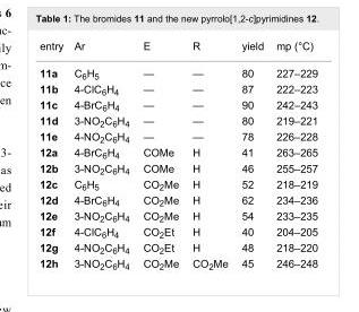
<table><tbody><tr><td>entry</td><td>Ar</td><td>E</td><td>R</td><td>yield</td><td>mp (°C)</td></tr><tr><td>11a</td><td>C<sub>6</sub>H<sub>5</sub></td><td>—</td><td>—</td><td>80</td><td>227–229</td></tr><tr><td>11b</td><td>4-ClC<sub>6</sub>H<sub>4</sub></td><td>—</td><td>—</td><td>87</td><td>222–223</td></tr><tr><td>11c</td><td>4-BrC<sub>6</sub>H<sub>4</sub></td><td>—</td><td>—</td><td>90</td><td>242–243</td></tr><tr><td>11d</td><td>3-NO<sub>2</sub>C<sub>6</sub>H<sub>4</sub></td><td>—</td><td>—</td><td>80</td><td>219–221</td></tr><tr><td>11e</td><td>4-NO<sub>2</sub>C<sub>6</sub>H<sub>4</sub></td><td>—</td><td>—</td><td>78</td><td>226–228</td></tr><tr><td>12a</td><td>4-BrC<sub>6</sub>H<sub>4</sub></td><td>COMe</td><td>H</td><td>41</td><td>263–265</td></tr><tr><td>12b</td><td>3-NO<sub>2</sub>C<sub>6</sub>H<sub>4</sub></td><td>COMe</td><td>H</td><td>46</td><td>255–257</td></tr><tr><td>12c</td><td>C<sub>6</sub>H<sub>5</sub></td><td>CO<sub>2</sub>Me</td><td>H</td><td>52</td><td>218–219</td></tr><tr><td>12d</td><td>4-BrC<sub>6</sub>H<sub>4</sub></td><td>CO<sub>2</sub>Me</td><td>H</td><td>62</td><td>234–236</td></tr><tr><td>12e</td><td>3-NO<sub>2</sub>C<sub>6</sub>H<sub>4</sub></td><td>CO<sub>2</sub>Me</td><td>H</td><td>54</td><td>233–235</td></tr><tr><td>12f</td><td>4-ClC<sub>6</sub>H<sub>4</sub></td><td>CO<sub>2</sub>Et</td><td>H</td><td>40</td><td>204–205</td></tr><tr><td>12g</td><td>4-NO<sub>2</sub>C<sub>6</sub>H<sub>4</sub></td><td>CO<sub>2</sub>Et</td><td>H</td><td>48</td><td>218–220</td></tr><tr><td>12h</td><td>3-NO<sub>2</sub>C<sub>6</sub>H<sub>4</sub></td><td>CO<sub>2</sub>Me</td><td>CO<sub>2</sub>Me</td><td>45</td><td>246–248</td></tr></tbody></table>